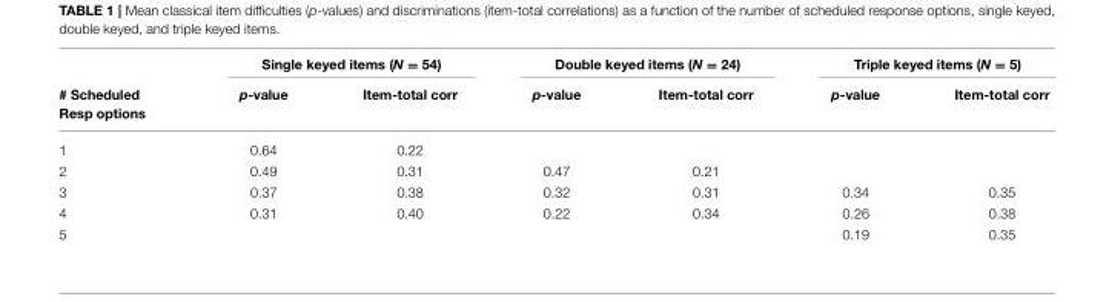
<table><thead><tr><td rowspan="2"># Scheduled Resp options</td><td colspan="2">Single keyed items (N = 54)</td><td colspan="2">Double keyed items (N = 24)</td><td colspan="2">Triple keyed items (N = 5)</td></tr><tr><td>p-value</td><td>Item-total corr</td><td>p-value</td><td>Item-total corr</td><td>p-value</td><td>Item-total corr</td></tr></thead><tbody><tr><td>1</td><td>0.64</td><td>0.22</td><td></td><td></td><td></td><td></td></tr><tr><td>2</td><td>0.49</td><td>0.31</td><td>0.47</td><td>0.21</td><td></td><td></td></tr><tr><td>3</td><td>0.37</td><td>0.38</td><td>0.32</td><td>0.31</td><td>0.34</td><td>0.35</td></tr><tr><td>4</td><td>0.31</td><td>0.40</td><td>0.22</td><td>0.34</td><td>0.26</td><td>0.38</td></tr><tr><td>5</td><td></td><td></td><td></td><td></td><td>0.19</td><td>0.35</td></tr></tbody></table>